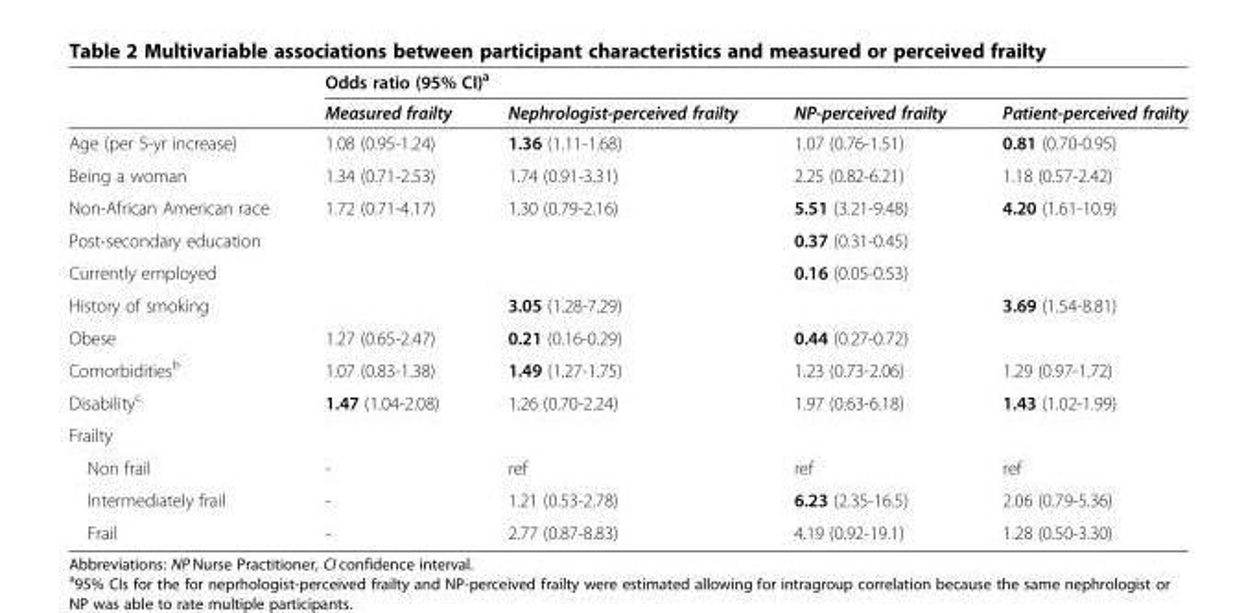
<table><thead><tr><td rowspan="2"></td><td colspan="4">Odds ratio (95% CI)<sup>a</sup></td></tr><tr><td>Measured frailty</td><td>Nephrologist-perceived frailty</td><td>NP-perceived frailty</td><td>Patient-perceived frailty</td></tr></thead><tbody><tr><td>Age (per 5-yr increase)</td><td>1.08 (0.95-1.24)</td><td>1.36 (1.11-1.68)</td><td>1.07 (0.76-1.51)</td><td>0.81 (0.70-0.95)</td></tr><tr><td>Being a woman</td><td>1.34 (0.71-2.53)</td><td>1.74 (0.91-3.31)</td><td>2.25 (0.82-6.21)</td><td>1.18 (0.57-2.42)</td></tr><tr><td>Non-African American race</td><td>1.72 (0.71-4.17)</td><td>1.30 (0.79-2.16)</td><td>5.51 (3.21-9.48)</td><td>4.20 (1.61-10.9)</td></tr><tr><td>Post-secondary education</td><td></td><td></td><td>0.37 (0.31-0.45)</td><td></td></tr><tr><td>Currently employed</td><td></td><td></td><td>0.16 (0.05-0.53)</td><td></td></tr><tr><td>History of smoking</td><td></td><td>3.05 (1.28-7.29)</td><td></td><td>3.69 (1.54-8.81)</td></tr><tr><td>Obese</td><td>1.27 (0.65-2.47)</td><td>0.21 (0.16-0.29)</td><td>0.44 (0.27-0.72)</td><td></td></tr><tr><td>Comorbidities<sup>b</sup></td><td>1.07 (0.83-1.38)</td><td>1.49 (1.27-1.75)</td><td>1.23 (0.73-2.06)</td><td>1.29 (0.97-1.72)</td></tr><tr><td>Disability<sup>c</sup></td><td>1.47 (1.04-2.08)</td><td>1.26 (0.70-2.24)</td><td>1.97 (0.63-6.18)</td><td>1.43 (1.02-1.99)</td></tr><tr><td colspan="5">Frailty</td></tr><tr><td>Non frail</td><td>-</td><td>ref</td><td>ref</td><td>ref</td></tr><tr><td>Intermediately frail</td><td>-</td><td>1.21 (0.53-2.78)</td><td>6.23 (2.35-16.5)</td><td>2.06 (0.79-5.36)</td></tr><tr><td>Frail</td><td>-</td><td>2.77 (0.87-8.83)</td><td>4.19 (0.92-19.1)</td><td>1.28 (0.50-3.30)</td></tr></tbody></table>